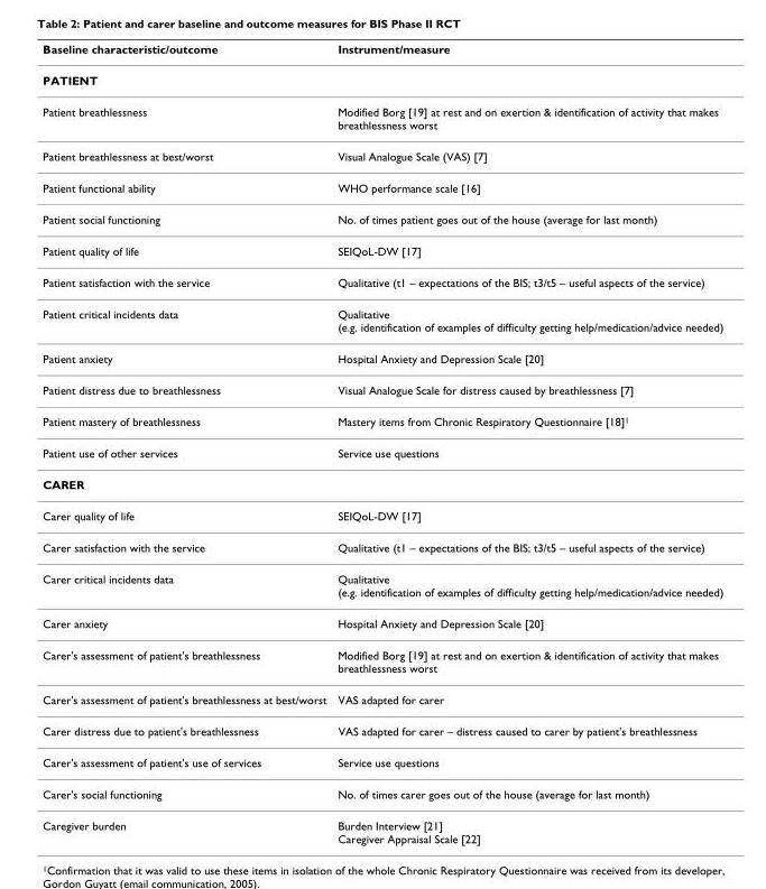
<table><thead><tr><td>Baseline characteristic/outcome</td><td>Instrument/measure</td></tr></thead><tbody><tr><td colspan="2">PATIENT</td></tr><tr><td>Patient breathlessness</td><td>Modified Borg [19] at rest and on exertion &amp; identification of activity that makes breathlessness worst</td></tr><tr><td>Patient breathlessness at best/worst</td><td>Visual Analogue Scale (VAS) [7]</td></tr><tr><td>Patient functional ability</td><td>WHO performance scale [16]</td></tr><tr><td>Patient social functioning</td><td>No. of times patient goes out of the house (average for last month)</td></tr><tr><td>Patient quality of life</td><td>SEIQoL-DW [17]</td></tr><tr><td>Patient satisfaction with the service</td><td>Qualitative (t1 – expectations of the BIS; t3/t5 – useful aspects of the service)</td></tr><tr><td>Patient critical incidents data</td><td>Qualitative (e.g. identification of examples of difficulty getting help/medication/advice needed)</td></tr><tr><td>Patient anxiety</td><td>Hospital Anxiety and Depression Scale [20]</td></tr><tr><td>Patient distress due to breathlessness</td><td>Visual Analogue Scale for distress caused by breathlessness [7]</td></tr><tr><td>Patient mastery of breathlessness</td><td>Mastery items from Chronic Respiratory Questionnaire [18]<sup>1</sup></td></tr><tr><td>Patient use of other services</td><td>Service use questions</td></tr><tr><td colspan="2">CARER</td></tr><tr><td>Carer quality of life</td><td>SEIQoL-DW [17]</td></tr><tr><td>Carer satisfaction with the service</td><td>Qualitative (t1 – expectations of the BIS; t3/t5 – useful aspects of the service)</td></tr><tr><td>Carer critical incidents data</td><td>Qualitative (e.g. identification of examples of difficulty getting help/medication/advice needed)</td></tr><tr><td>Carer anxiety</td><td>Hospital Anxiety and Depression Scale [20]</td></tr><tr><td>Carer&#x27;s assessment of patient&#x27;s breathlessness</td><td>Modified Borg [19] at rest and on exertion &amp; identification of activity that makes breathlessness worst</td></tr><tr><td>Carer&#x27;s assessment of patient&#x27;s breathlessness at best/worst</td><td>VAS adapted for carer</td></tr><tr><td>Carer distress due to patient&#x27;s breathlessness</td><td>VAS adapted for carer – distress caused to carer by patient&#x27;s breathlessness</td></tr><tr><td>Carer&#x27;s assessment of patient&#x27;s use of services</td><td>Service use questions</td></tr><tr><td>Carer&#x27;s social functioning</td><td>No. of times carer goes out of the house (average for last month)</td></tr><tr><td>Caregiver burden</td><td>Burden Interview [21] Caregiver Appraisal Scale [22]</td></tr></tbody></table>